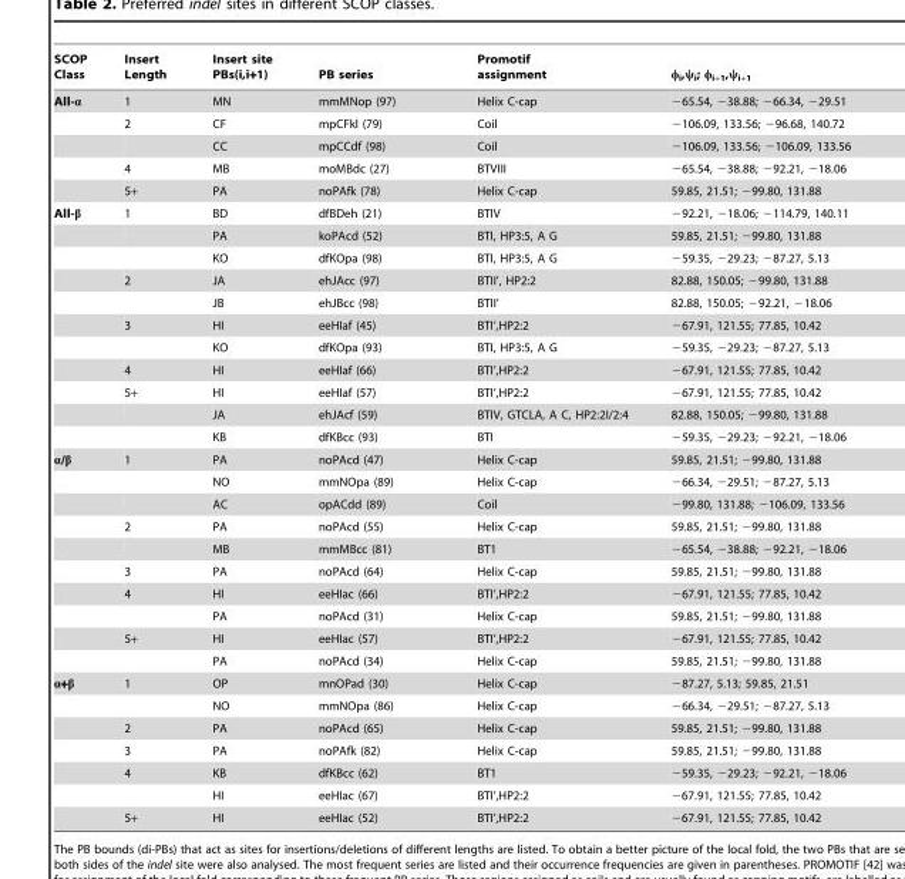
<table><thead><tr><td>SCOP Class</td><td>Insert Length</td><td>Insert site PBs(i,i+1)</td><td>PB series</td><td>Promotif assignment</td><td>φ<sub>i</sub>,ψ<sub>i</sub>; φ<sub>i+1</sub>,ψ<sub>i+1</sub></td></tr></thead><tbody><tr><td rowspan="5">All-α</td><td>1</td><td>MN</td><td>mmMNop (97)</td><td>Helix C-cap</td><td>−65.54, −38.88; −66.34, −29.51</td></tr><tr><td>2</td><td>CF</td><td>mpCFkl (79)</td><td>Coil</td><td>−106.09, 133.56; −96.68, 140.72</td></tr><tr><td></td><td>CC</td><td>mpCCdf (98)</td><td>Coil</td><td>−106.09, 133.56; −106.09, 133.56</td></tr><tr><td>4</td><td>MB</td><td>moMBdc (27)</td><td>BTVIII</td><td>−65.54, −38.88; −92.21, −18.06</td></tr><tr><td>5+</td><td>PA</td><td>noPAfk (78)</td><td>Helix C-cap</td><td>59.85, 21.51; −99.80, 131.88</td></tr><tr><td rowspan="11">All-β</td><td>1</td><td>BD</td><td>dfBDeh (21)</td><td>BTIV</td><td>−92.21, −18.06; −114.79, 140.11</td></tr><tr><td></td><td>PA</td><td>koPAcd (52)</td><td>BTI, HP3:5, A G</td><td>59.85, 21.51; −99.80, 131.88</td></tr><tr><td></td><td>KO</td><td>dfKOpa (98)</td><td>BTI, HP3:5, A G</td><td>−59.35, −29.23; −87.27, 5.13</td></tr><tr><td>2</td><td>JA</td><td>ehJAcc (97)</td><td>BTII’, HP2:2</td><td>82.88, 150.05; −99.80, 131.88</td></tr><tr><td></td><td>JB</td><td>ehJBcc (98)</td><td>BTII’</td><td>82.88, 150.05; −92.21, −18.06</td></tr><tr><td>3</td><td>HI</td><td>eeHIaf (45)</td><td>BTI’,HP2:2</td><td>−67.91, 121.55; 77.85, 10.42</td></tr><tr><td></td><td>KO</td><td>dfKOpa (93)</td><td>BTI, HP3:5, A G</td><td>−59.35, −29.23; −87.27, 5.13</td></tr><tr><td>4</td><td>HI</td><td>eeHIaf (66)</td><td>BTI’,HP2:2</td><td>−67.91, 121.55; 77.85, 10.42</td></tr><tr><td>5+</td><td>HI</td><td>eeHIaf (57)</td><td>BTI’,HP2:2</td><td>−67.91, 121.55; 77.85, 10.42</td></tr><tr><td></td><td>JA</td><td>ehJAcf (59)</td><td>BTIV, GTCLA, A C, HP2:2I/2:4</td><td>82.88, 150.05; −99.80, 131.88</td></tr><tr><td></td><td>KB</td><td>dfKBcc (93)</td><td>BTI</td><td>−59.35, −29.23; −92.21, −18.06</td></tr><tr><td rowspan="10">α/β</td><td>1</td><td>PA</td><td>noPAcd (47)</td><td>Helix C-cap</td><td>59.85, 21.51; −99.80, 131.88</td></tr><tr><td></td><td>NO</td><td>mmNOpa (89)</td><td>Helix C-cap</td><td>−66.34, −29.51; −87.27, 5.13</td></tr><tr><td></td><td>AC</td><td>opACdd (89)</td><td>Coil</td><td>−99.80, 131.88; −106.09, 133.56</td></tr><tr><td>2</td><td>PA</td><td>noPAcd (55)</td><td>Helix C-cap</td><td>59.85, 21.51; −99.80, 131.88</td></tr><tr><td></td><td>MB</td><td>mmMBcc (81)</td><td>BT1</td><td>−65.54, −38.88; −92.21, −18.06</td></tr><tr><td>3</td><td>PA</td><td>noPAcd (64)</td><td>Helix C-cap</td><td>59.85, 21.51; −99.80, 131.88</td></tr><tr><td>4</td><td>HI</td><td>eeHIac (66)</td><td>BTI’,HP2:2</td><td>−67.91, 121.55; 77.85, 10.42</td></tr><tr><td></td><td>PA</td><td>noPAcd (31)</td><td>Helix C-cap</td><td>59.85, 21.51; −99.80, 131.88</td></tr><tr><td>5+</td><td>HI</td><td>eeHIac (57)</td><td>BTI’,HP2:2</td><td>−67.91, 121.55; 77.85, 10.42</td></tr><tr><td></td><td>PA</td><td>noPAcd (34)</td><td>Helix C-cap</td><td>59.85, 21.51; −99.80, 131.88</td></tr><tr><td rowspan="7">α+β</td><td>1</td><td>OP</td><td>mnOPad (30)</td><td>Helix C-cap</td><td>−87.27, 5.13; 59.85, 21.51</td></tr><tr><td></td><td>NO</td><td>mmNOpa (86)</td><td>Helix C-cap</td><td>−66.34, −29.51; −87.27, 5.13</td></tr><tr><td>2</td><td>PA</td><td>noPAcd (65)</td><td>Helix C-cap</td><td>59.85, 21.51; −99.80, 131.88</td></tr><tr><td>3</td><td>PA</td><td>noPAfk (82)</td><td>Helix C-cap</td><td>59.85, 21.51; −99.80, 131.88</td></tr><tr><td>4</td><td>KB</td><td>dfKBcc (62)</td><td>BT1</td><td>−59.35, −29.23; −92.21, −18.06</td></tr><tr><td></td><td>HI</td><td>eeHIac (67)</td><td>BTI’,HP2:2</td><td>−67.91, 121.55; 77.85, 10.42</td></tr><tr><td>5+</td><td>HI</td><td>eeHIac (52)</td><td>BTI’,HP2:2</td><td>−67.91, 121.55; 77.85, 10.42</td></tr></tbody></table>